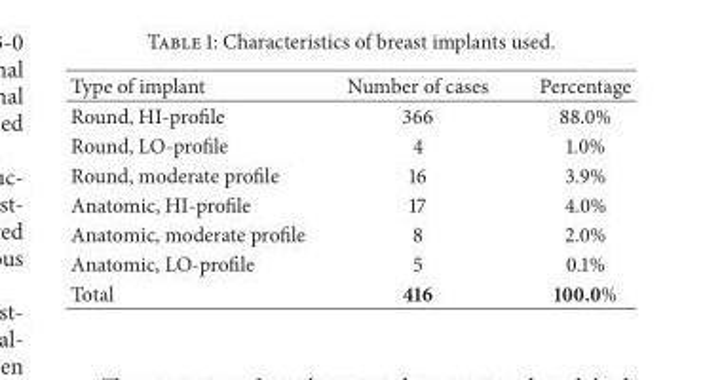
<table><thead><tr><td>Type of implant</td><td>Number of cases</td><td>Percentage</td></tr></thead><tbody><tr><td>Round, HI-profile</td><td>366</td><td>88.0%</td></tr><tr><td>Round, LO-profile</td><td>4</td><td>1.0%</td></tr><tr><td>Round, moderate profile</td><td>16</td><td>3.9%</td></tr><tr><td>Anatomic, HI-profile</td><td>17</td><td>4.0%</td></tr><tr><td>Anatomic, moderate profile</td><td>8</td><td>2.0%</td></tr><tr><td>Anatomic, LO-profile</td><td>5</td><td>0.1%</td></tr><tr><td>Total</td><td>416</td><td>100.0%</td></tr></tbody></table>